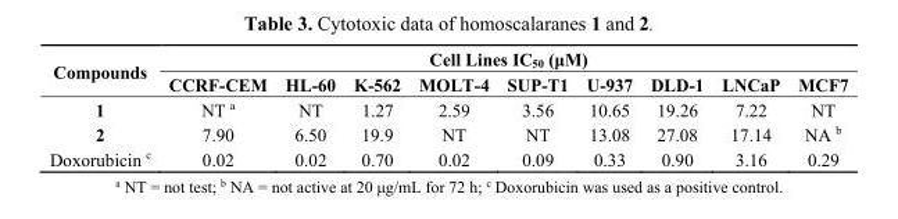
<table><thead><tr><td rowspan="2">Compounds</td><td colspan="9">Cell Lines IC<sub>50</sub> (μM)</td></tr><tr><td>CCRF-CEM</td><td>HL-60</td><td>K-562</td><td>MOLT-4</td><td>SUP-T1</td><td>U-937</td><td>DLD-1</td><td>LNCaP</td><td>MCF7</td></tr></thead><tbody><tr><td>1</td><td>NT <sup>a</sup></td><td>NT</td><td>1.27</td><td>2.59</td><td>3.56</td><td>10.65</td><td>19.26</td><td>7.22</td><td>NT</td></tr><tr><td>2</td><td>7.90</td><td>6.50</td><td>19.9</td><td>NT</td><td>NT</td><td>13.08</td><td>27.08</td><td>17.14</td><td>NA <sup>b</sup></td></tr><tr><td>Doxorubicin <sup>c</sup></td><td>0.02</td><td>0.02</td><td>0.70</td><td>0.02</td><td>0.09</td><td>0.33</td><td>0.90</td><td>3.16</td><td>0.29</td></tr></tbody></table>